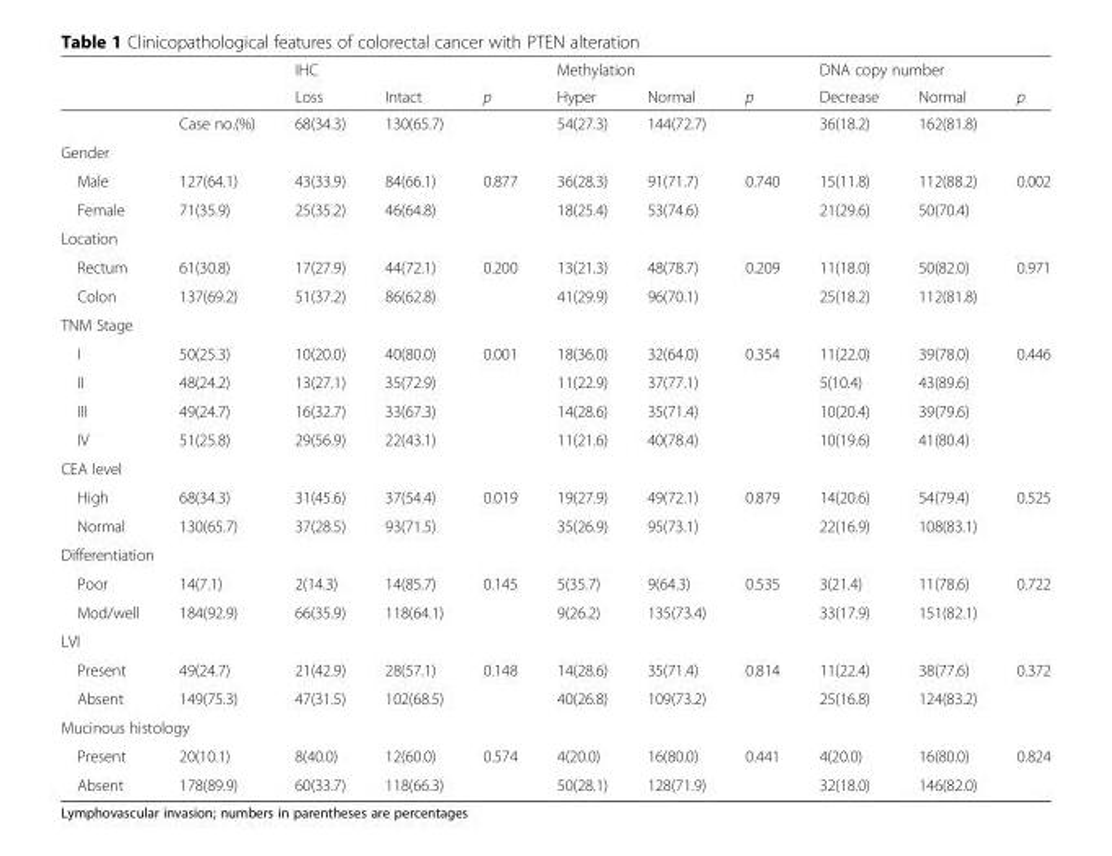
<table><thead><tr><td rowspan="2"></td><td rowspan="2"></td><td colspan="3">IHC</td><td colspan="3">Methylation</td><td colspan="3">DNA copy number</td></tr><tr><td>Loss</td><td>Intact</td><td>p</td><td>Hyper</td><td>Normal</td><td>p</td><td>Decrease</td><td>Normal</td><td>p</td></tr></thead><tbody><tr><td></td><td>Case no.(%)</td><td>68(34.3)</td><td>130(65.7)</td><td></td><td>54(27.3)</td><td>144(72.7)</td><td></td><td>36(18.2)</td><td>162(81.8)</td><td></td></tr><tr><td colspan="11">Gender</td></tr><tr><td>Male</td><td>127(64.1)</td><td>43(33.9)</td><td>84(66.1)</td><td>0.877</td><td>36(28.3)</td><td>91(71.7)</td><td>0.740</td><td>15(11.8)</td><td>112(88.2)</td><td>0.002</td></tr><tr><td>Female</td><td>71(35.9)</td><td>25(35.2)</td><td>46(64.8)</td><td></td><td>18(25.4)</td><td>53(74.6)</td><td></td><td>21(29.6)</td><td>50(70.4)</td><td></td></tr><tr><td colspan="11">Location</td></tr><tr><td>Rectum</td><td>61(30.8)</td><td>17(27.9)</td><td>44(72.1)</td><td>0.200</td><td>13(21.3)</td><td>48(78.7)</td><td>0.209</td><td>11(18.0)</td><td>50(82.0)</td><td>0.971</td></tr><tr><td>Colon</td><td>137(69.2)</td><td>51(37.2)</td><td>86(62.8)</td><td></td><td>41(29.9)</td><td>96(70.1)</td><td></td><td>25(18.2)</td><td>112(81.8)</td><td></td></tr><tr><td colspan="11">TNM Stage</td></tr><tr><td>I</td><td>50(25.3)</td><td>10(20.0)</td><td>40(80.0)</td><td>0.001</td><td>18(36.0)</td><td>32(64.0)</td><td>0.354</td><td>11(22.0)</td><td>39(78.0)</td><td>0.446</td></tr><tr><td>II</td><td>48(24.2)</td><td>13(27.1)</td><td>35(72.9)</td><td></td><td>11(22.9)</td><td>37(77.1)</td><td></td><td>5(10.4)</td><td>43(89.6)</td><td></td></tr><tr><td>III</td><td>49(24.7)</td><td>16(32.7)</td><td>33(67.3)</td><td></td><td>14(28.6)</td><td>35(71.4)</td><td></td><td>10(20.4)</td><td>39(79.6)</td><td></td></tr><tr><td>IV</td><td>51(25.8)</td><td>29(56.9)</td><td>22(43.1)</td><td></td><td>11(21.6)</td><td>40(78.4)</td><td></td><td>10(19.6)</td><td>41(80.4)</td><td></td></tr><tr><td colspan="11">CEA level</td></tr><tr><td>High</td><td>68(34.3)</td><td>31(45.6)</td><td>37(54.4)</td><td>0.019</td><td>19(27.9)</td><td>49(72.1)</td><td>0.879</td><td>14(20.6)</td><td>54(79.4)</td><td>0.525</td></tr><tr><td>Normal</td><td>130(65.7)</td><td>37(28.5)</td><td>93(71.5)</td><td></td><td>35(26.9)</td><td>95(73.1)</td><td></td><td>22(16.9)</td><td>108(83.1)</td><td></td></tr><tr><td colspan="11">Differentiation</td></tr><tr><td>Poor</td><td>14(7.1)</td><td>2(14.3)</td><td>14(85.7)</td><td>0.145</td><td>5(35.7)</td><td>9(64.3)</td><td>0.535</td><td>3(21.4)</td><td>11(78.6)</td><td>0.722</td></tr><tr><td>Mod/well</td><td>184(92.9)</td><td>66(35.9)</td><td>118(64.1)</td><td></td><td>9(26.2)</td><td>135(73.4)</td><td></td><td>33(17.9)</td><td>151(82.1)</td><td></td></tr><tr><td colspan="11">LVI</td></tr><tr><td>Present</td><td>49(24.7)</td><td>21(42.9)</td><td>28(57.1)</td><td>0.148</td><td>14(28.6)</td><td>35(71.4)</td><td>0.814</td><td>11(22.4)</td><td>38(77.6)</td><td>0.372</td></tr><tr><td>Absent</td><td>149(75.3)</td><td>47(31.5)</td><td>102(68.5)</td><td></td><td>40(26.8)</td><td>109(73.2)</td><td></td><td>25(16.8)</td><td>124(83.2)</td><td></td></tr><tr><td colspan="11">Mucinous histology</td></tr><tr><td>Present</td><td>20(10.1)</td><td>8(40.0)</td><td>12(60.0)</td><td>0.574</td><td>4(20.0)</td><td>16(80.0)</td><td>0.441</td><td>4(20.0)</td><td>16(80.0)</td><td>0.824</td></tr><tr><td>Absent</td><td>178(89.9)</td><td>60(33.7)</td><td>118(66.3)</td><td></td><td>50(28.1)</td><td>128(71.9)</td><td></td><td>32(18.0)</td><td>146(82.0)</td><td></td></tr></tbody></table>